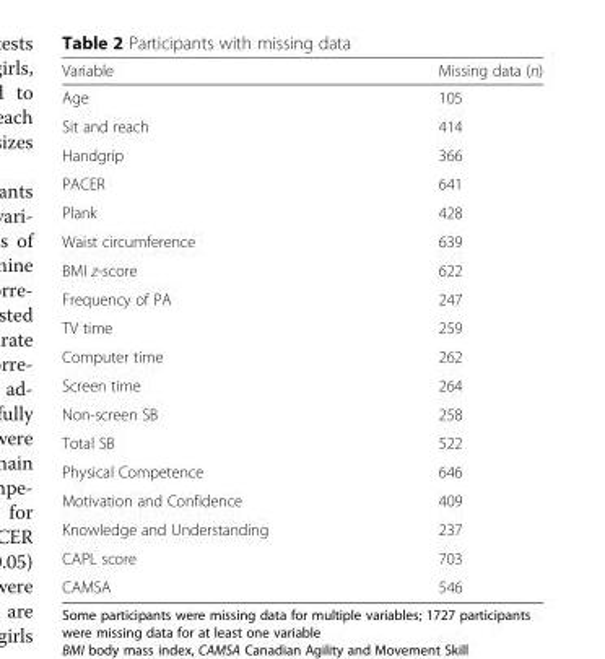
<table><thead><tr><td>Variable</td><td>Missing data (n)</td></tr></thead><tbody><tr><td>Age</td><td>105</td></tr><tr><td>Sit and reach</td><td>414</td></tr><tr><td>Handgrip</td><td>366</td></tr><tr><td>PACER</td><td>641</td></tr><tr><td>Plank</td><td>428</td></tr><tr><td>Waist circumference</td><td>639</td></tr><tr><td>BMI z-score</td><td>622</td></tr><tr><td>Frequency of PA</td><td>247</td></tr><tr><td>TV time</td><td>259</td></tr><tr><td>Computer time</td><td>262</td></tr><tr><td>Screen time</td><td>264</td></tr><tr><td>Non-screen SB</td><td>258</td></tr><tr><td>Total SB</td><td>522</td></tr><tr><td>Physical Competence</td><td>646</td></tr><tr><td>Motivation and Confidence</td><td>409</td></tr><tr><td>Knowledge and Understanding</td><td>237</td></tr><tr><td>CAPL score</td><td>703</td></tr><tr><td>CAMSA</td><td>546</td></tr></tbody></table>